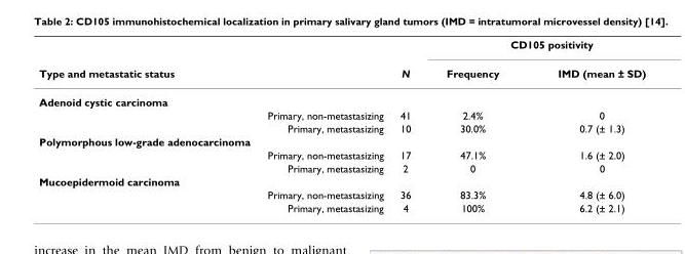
<table><thead><tr><td rowspan="2">Type and metastatic status</td><td rowspan="2">N</td><td colspan="2">CD105 positivity</td></tr><tr><td>Frequency</td><td>IMD (mean ± SD)</td></tr></thead><tbody><tr><td colspan="4">Adenoid cystic carcinoma</td></tr><tr><td>Primary, non-metastasizing</td><td>41</td><td>2.4%</td><td>0</td></tr><tr><td>Primary, metastasizing</td><td>10</td><td>30.0%</td><td>0.7 (± 1.3)</td></tr><tr><td colspan="4">Polymorphous low-grade adenocarcinoma</td></tr><tr><td>Primary, non-metastasizing</td><td>17</td><td>47.1%</td><td>1.6 (± 2.0)</td></tr><tr><td>Primary, metastasizing</td><td>2</td><td>0</td><td>0</td></tr><tr><td colspan="4">Mucoepidermoid carcinoma</td></tr><tr><td>Primary, non-metastasizing</td><td>36</td><td>83.3%</td><td>4.8 (± 6.0)</td></tr><tr><td>Primary, metastasizing</td><td>4</td><td>100%</td><td>6.2 (± 2.1)</td></tr></tbody></table>